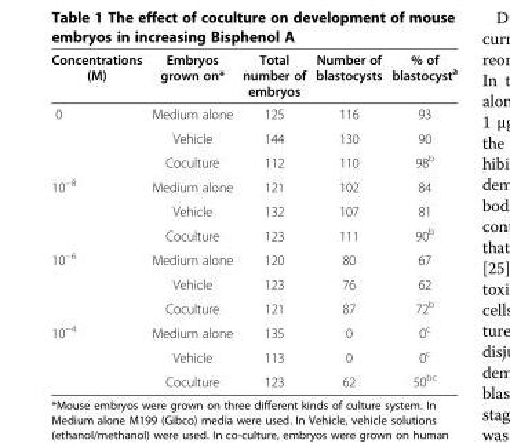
<table><thead><tr><td>Concentrations (M)</td><td>Embryos grown on*</td><td>Total number of embryos</td><td>Number of blastocysts</td><td>% of blastocyst<sup>a</sup></td></tr></thead><tbody><tr><td rowspan="3">0</td><td>Medium alone</td><td>125</td><td>116</td><td>93</td></tr><tr><td>Vehicle</td><td>144</td><td>130</td><td>90</td></tr><tr><td>Coculture</td><td>112</td><td>110</td><td>98<sup>b</sup></td></tr><tr><td rowspan="3">10<sup>−8</sup></td><td>Medium alone</td><td>121</td><td>102</td><td>84</td></tr><tr><td>Vehicle</td><td>132</td><td>107</td><td>81</td></tr><tr><td>Coculture</td><td>123</td><td>111</td><td>90<sup>b</sup></td></tr><tr><td rowspan="3">10<sup>−6</sup></td><td>Medium alone</td><td>120</td><td>80</td><td>67</td></tr><tr><td>Vehicle</td><td>123</td><td>76</td><td>62</td></tr><tr><td>Coculture</td><td>121</td><td>87</td><td>72<sup>b</sup></td></tr><tr><td rowspan="3">10<sup>−4</sup></td><td>Medium alone</td><td>135</td><td>0</td><td>0<sup>c</sup></td></tr><tr><td>Vehicle</td><td>113</td><td>0</td><td>0<sup>c</sup></td></tr><tr><td>Coculture</td><td>123</td><td>62</td><td>50<sup>bc</sup></td></tr></tbody></table>